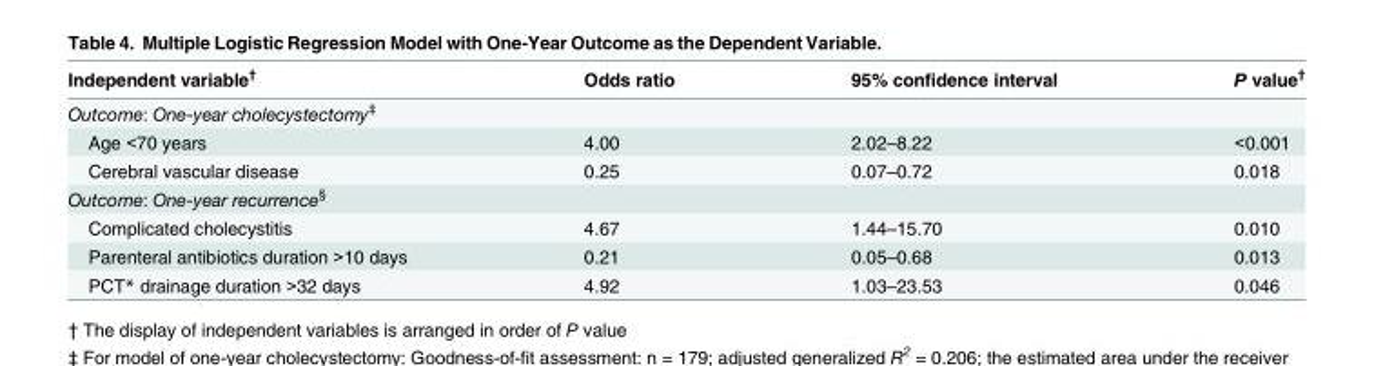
<table><thead><tr><td>Independent variable<sup>†</sup></td><td>Odds ratio</td><td>95% confidence interval</td><td>P value<sup>†</sup></td></tr></thead><tbody><tr><td colspan="4">Outcome: One-year cholecystectomy<sup>‡</sup></td></tr><tr><td>Age &lt;70 years</td><td>4.00</td><td>2.02–8.22</td><td>&lt;0.001</td></tr><tr><td>Cerebral vascular disease</td><td>0.25</td><td>0.07–0.72</td><td>0.018</td></tr><tr><td colspan="4">Outcome: One-year recurrence<sup>§</sup></td></tr><tr><td>Complicated cholecystitis</td><td>4.67</td><td>1.44–15.70</td><td>0.010</td></tr><tr><td>Parenteral antibiotics duration &gt;10 days</td><td>0.21</td><td>0.05–0.68</td><td>0.013</td></tr><tr><td>PCT* drainage duration &gt;32 days</td><td>4.92</td><td>1.03–23.53</td><td>0.046</td></tr></tbody></table>